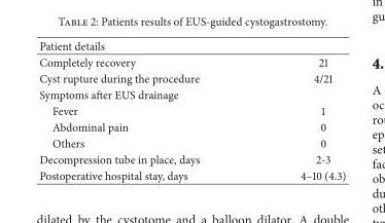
<table><thead><tr><td>Patient details</td><td></td></tr></thead><tbody><tr><td>Completely recovery</td><td>21</td></tr><tr><td>Cyst rupture during the procedure</td><td>4/21</td></tr><tr><td colspan="2">Symptoms after EUS drainage</td></tr><tr><td>Fever</td><td>1</td></tr><tr><td>Abdominal pain</td><td>0</td></tr><tr><td>Others</td><td>0</td></tr><tr><td>Decompression tube in place, days</td><td>2-3</td></tr><tr><td>Postoperative hospital stay, days</td><td>4–10 (4.3)</td></tr></tbody></table>